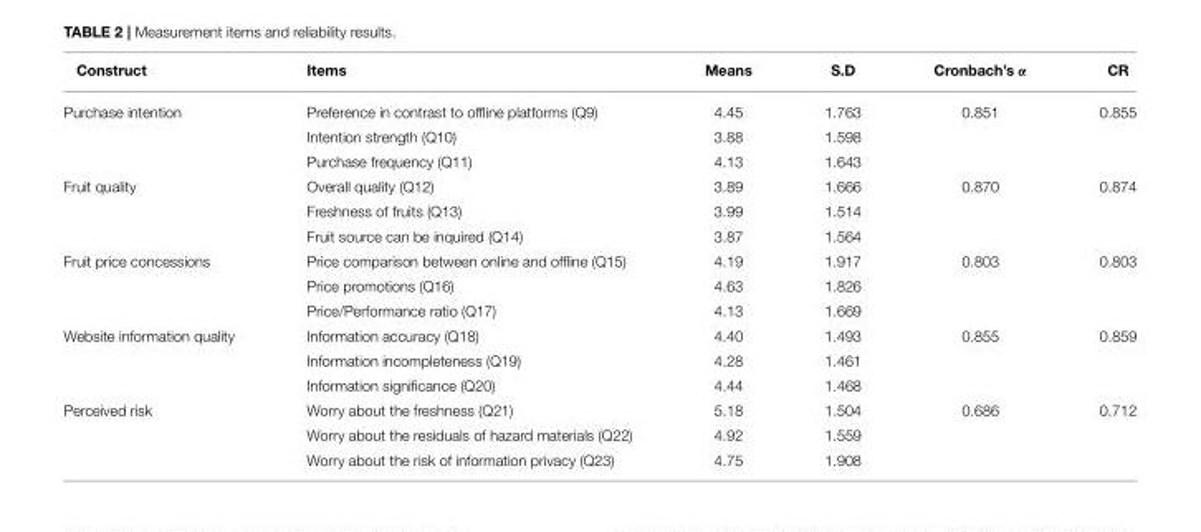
<table><thead><tr><td>Construct</td><td>Items</td><td>Means</td><td>S.D</td><td>Cronbach’s α</td><td>CR</td></tr></thead><tbody><tr><td rowspan="3">Purchase intention</td><td>Preference in contrast to offline platforms (Q9)</td><td>4.45</td><td>1.763</td><td>0.851</td><td>0.855</td></tr><tr><td>Intention strength (Q10)</td><td>3.88</td><td>1.598</td><td></td><td></td></tr><tr><td>Purchase frequency (Q11)</td><td>4.13</td><td>1.643</td><td></td><td></td></tr><tr><td rowspan="3">Fruit quality</td><td>Overall quality (Q12)</td><td>3.89</td><td>1.666</td><td>0.870</td><td>0.874</td></tr><tr><td>Freshness of fruits (Q13)</td><td>3.99</td><td>1.514</td><td></td><td></td></tr><tr><td>Fruit source can be inquired (Q14)</td><td>3.87</td><td>1.564</td><td></td><td></td></tr><tr><td rowspan="3">Fruit price concessions</td><td>Price comparison between online and offline (Q15)</td><td>4.19</td><td>1.917</td><td>0.803</td><td>0.803</td></tr><tr><td>Price promotions (Q16)</td><td>4.63</td><td>1.826</td><td></td><td></td></tr><tr><td>Price/Performance ratio (Q17)</td><td>4.13</td><td>1.669</td><td></td><td></td></tr><tr><td rowspan="3">Website information quality</td><td>Information accuracy (Q18)</td><td>4.40</td><td>1.493</td><td>0.855</td><td>0.859</td></tr><tr><td>Information incompleteness (Q19)</td><td>4.28</td><td>1.461</td><td></td><td></td></tr><tr><td>Information significance (Q20)</td><td>4.44</td><td>1.468</td><td></td><td></td></tr><tr><td rowspan="3">Perceived risk</td><td>Worry about the freshness (Q21)</td><td>5.18</td><td>1.504</td><td>0.686</td><td>0.712</td></tr><tr><td>Worry about the residuals of hazard materials (Q22)</td><td>4.92</td><td>1.559</td><td></td><td></td></tr><tr><td>Worry about the risk of information privacy (Q23)</td><td>4.75</td><td>1.908</td><td></td><td></td></tr></tbody></table>